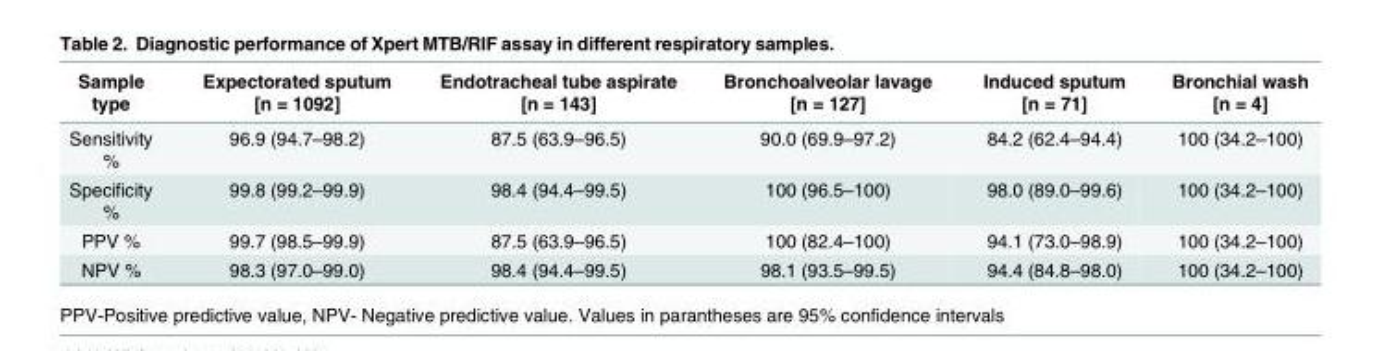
<table><thead><tr><td>Sample type</td><td>Expectorated sputum [n = 1092]</td><td>Endotracheal tube aspirate [n = 143]</td><td>Bronchoalveolar lavage [n = 127]</td><td>Induced sputum [n = 71]</td><td>Bronchial wash [n = 4]</td></tr></thead><tbody><tr><td>Sensitivity %</td><td>96.9 (94.7–98.2)</td><td>87.5 (63.9–96.5)</td><td>90.0 (69.9–97.2)</td><td>84.2 (62.4–94.4)</td><td>100 (34.2–100)</td></tr><tr><td>Specificity %</td><td>99.8 (99.2–99.9)</td><td>98.4 (94.4–99.5)</td><td>100 (96.5–100)</td><td>98.0 (89.0–99.6)</td><td>100 (34.2–100)</td></tr><tr><td>PPV %</td><td>99.7 (98.5–99.9)</td><td>87.5 (63.9–96.5)</td><td>100 (82.4–100)</td><td>94.1 (73.0–98.9)</td><td>100 (34.2–100)</td></tr><tr><td>NPV %</td><td>98.3 (97.0–99.0)</td><td>98.4 (94.4–99.5)</td><td>98.1 (93.5–99.5)</td><td>94.4 (84.8–98.0)</td><td>100 (34.2–100)</td></tr></tbody></table>